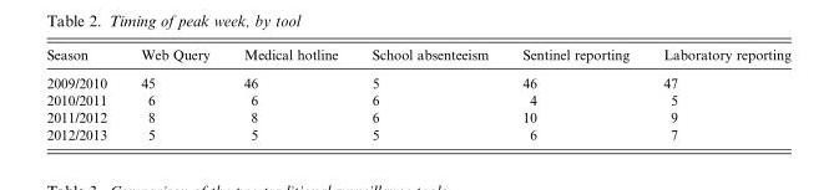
<table><thead><tr><td>Season</td><td>Web Query</td><td>Medical hotline</td><td>School absenteeism</td><td>Sentinel reporting</td><td>Laboratory reporting</td></tr></thead><tbody><tr><td>2009/2010</td><td>45</td><td>46</td><td>5</td><td>46</td><td>47</td></tr><tr><td>2010/2011</td><td>6</td><td>6</td><td>6</td><td>4</td><td>5</td></tr><tr><td>2011/2012</td><td>8</td><td>8</td><td>6</td><td>10</td><td>9</td></tr><tr><td>2012/2013</td><td>5</td><td>5</td><td>5</td><td>6</td><td>7</td></tr></tbody></table>